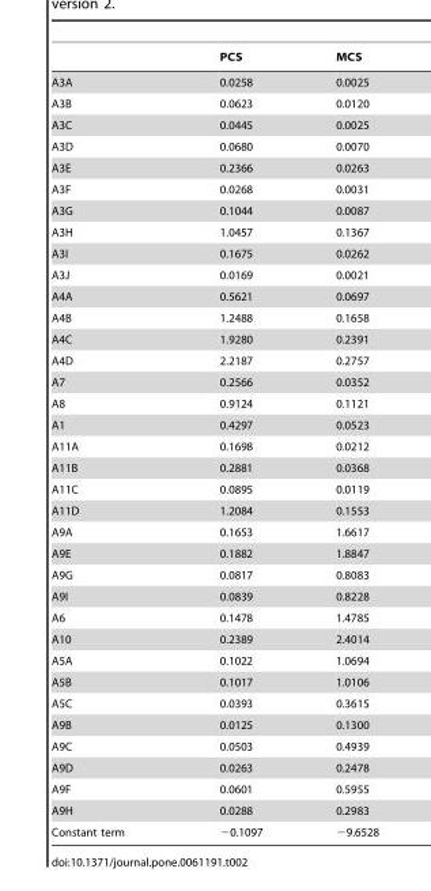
<table><thead><tr><td></td><td>PCS</td><td>MCS</td></tr></thead><tbody><tr><td>A3A</td><td>0.0258</td><td>0.0025</td></tr><tr><td>A3B</td><td>0.0623</td><td>0.0120</td></tr><tr><td>A3C</td><td>0.0445</td><td>0.0025</td></tr><tr><td>A3D</td><td>0.0680</td><td>0.0070</td></tr><tr><td>A3E</td><td>0.2366</td><td>0.0263</td></tr><tr><td>A3F</td><td>0.0268</td><td>0.0031</td></tr><tr><td>A3G</td><td>0.1044</td><td>0.0087</td></tr><tr><td>A3H</td><td>1.0457</td><td>0.1367</td></tr><tr><td>A3I</td><td>0.1675</td><td>0.0262</td></tr><tr><td>A3J</td><td>0.0169</td><td>0.0021</td></tr><tr><td>A4A</td><td>0.5621</td><td>0.0697</td></tr><tr><td>A4B</td><td>1.2488</td><td>0.1658</td></tr><tr><td>A4C</td><td>1.9280</td><td>0.2391</td></tr><tr><td>A4D</td><td>2.2187</td><td>0.2757</td></tr><tr><td>A7</td><td>0.2566</td><td>0.0352</td></tr><tr><td>A8</td><td>0.9124</td><td>0.1121</td></tr><tr><td>A1</td><td>0.4297</td><td>0.0523</td></tr><tr><td>A11A</td><td>0.1698</td><td>0.0212</td></tr><tr><td>A11B</td><td>0.2881</td><td>0.0368</td></tr><tr><td>A11C</td><td>0.0895</td><td>0.0119</td></tr><tr><td>A11D</td><td>1.2084</td><td>0.1553</td></tr><tr><td>A9A</td><td>0.1653</td><td>1.6617</td></tr><tr><td>A9E</td><td>0.1882</td><td>1.8847</td></tr><tr><td>A9G</td><td>0.0817</td><td>0.8083</td></tr><tr><td>A9I</td><td>0.0839</td><td>0.8228</td></tr><tr><td>A6</td><td>0.1478</td><td>1.4785</td></tr><tr><td>A10</td><td>0.2389</td><td>2.4014</td></tr><tr><td>A5A</td><td>0.1022</td><td>1.0694</td></tr><tr><td>A5B</td><td>0.1017</td><td>1.0106</td></tr><tr><td>A5C</td><td>0.0393</td><td>0.3615</td></tr><tr><td>A9B</td><td>0.0125</td><td>0.1300</td></tr><tr><td>A9C</td><td>0.0503</td><td>0.4939</td></tr><tr><td>A9D</td><td>0.0263</td><td>0.2478</td></tr><tr><td>A9F</td><td>0.0601</td><td>0.5955</td></tr><tr><td>A9H</td><td>0.0288</td><td>0.2983</td></tr><tr><td>Constant term</td><td>−0.1097</td><td>−9.6528</td></tr></tbody></table>